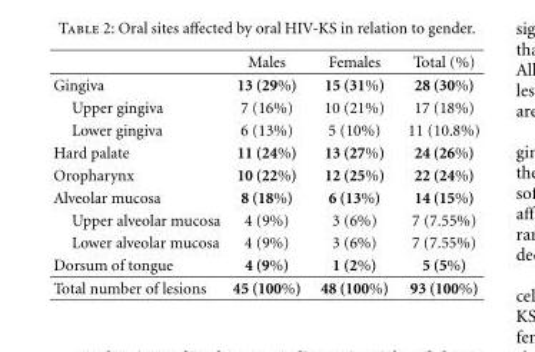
<table><thead><tr><td></td><td>Males</td><td>Females</td><td>Total (%)</td></tr></thead><tbody><tr><td>Gingiva</td><td>13 (29%)</td><td>15 (31%)</td><td>28 (30%)</td></tr><tr><td>Upper gingiva</td><td>7 (16%)</td><td>10 (21%)</td><td>17 (18%)</td></tr><tr><td>Lower gingiva</td><td>6 (13%)</td><td>5 (10%)</td><td>11 (10.8%)</td></tr><tr><td>Hard palate</td><td>11 (24%)</td><td>13 (27%)</td><td>24 (26%)</td></tr><tr><td>Oropharynx</td><td>10 (22%)</td><td>12 (25%)</td><td>22 (24%)</td></tr><tr><td>Alveolar mucosa</td><td>8 (18%)</td><td>6 (13%)</td><td>14 (15%)</td></tr><tr><td>Upper alveolar mucosa</td><td>4 (9%)</td><td>3 (6%)</td><td>7 (7.55%)</td></tr><tr><td>Lower alveolar mucosa</td><td>4 (9%)</td><td>3 (6%)</td><td>7 (7.55%)</td></tr><tr><td>Dorsum of tongue</td><td>4 (9%)</td><td>1 (2%)</td><td>5 (5%)</td></tr><tr><td>Total number of lesions</td><td>45 (100%)</td><td>48 (100%)</td><td>93 (100%)</td></tr></tbody></table>